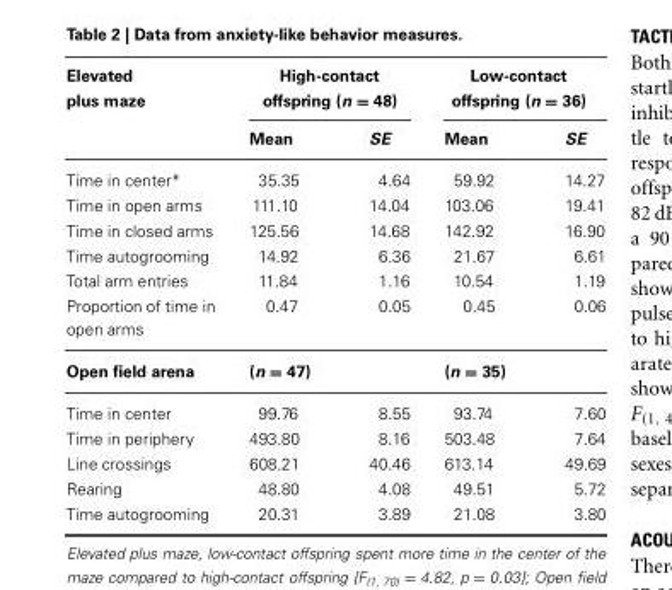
<table><thead><tr><td rowspan="2">Elevated plus maze</td><td colspan="2">High-contact offspring (n = 48)</td><td colspan="2">Low-contact offspring (n = 36)</td></tr><tr><td>Mean</td><td>SE</td><td>Mean</td><td>SE</td></tr></thead><tbody><tr><td>Time in center*</td><td>35.35</td><td>4.64</td><td>59.92</td><td>14.27</td></tr><tr><td>Time in open arms</td><td>111.10</td><td>14.04</td><td>103.06</td><td>19.41</td></tr><tr><td>Time in closed arms</td><td>125.56</td><td>14.68</td><td>142.92</td><td>16.90</td></tr><tr><td>Time autogrooming</td><td>14.92</td><td>6.36</td><td>21.67</td><td>6.61</td></tr><tr><td>Total arm entries</td><td>11.84</td><td>1.16</td><td>10.54</td><td>1.19</td></tr><tr><td>Proportion of time in open arms</td><td>0.47</td><td>0.05</td><td>0.45</td><td>0.06</td></tr><tr><td>Open field arena</td><td colspan="2">(n = 47)</td><td colspan="2">(n = 35)</td></tr><tr><td>Time in center</td><td>99.76</td><td>8.55</td><td>93.74</td><td>7.60</td></tr><tr><td>Time in periphery</td><td>493.80</td><td>8.16</td><td>503.48</td><td>7.64</td></tr><tr><td>Line crossings</td><td>608.21</td><td>40.46</td><td>613.14</td><td>49.69</td></tr><tr><td>Rearing</td><td>48.80</td><td>4.08</td><td>49.51</td><td>5.72</td></tr><tr><td>Time autogrooming</td><td>20.31</td><td>3.89</td><td>21.08</td><td>3.80</td></tr></tbody></table>